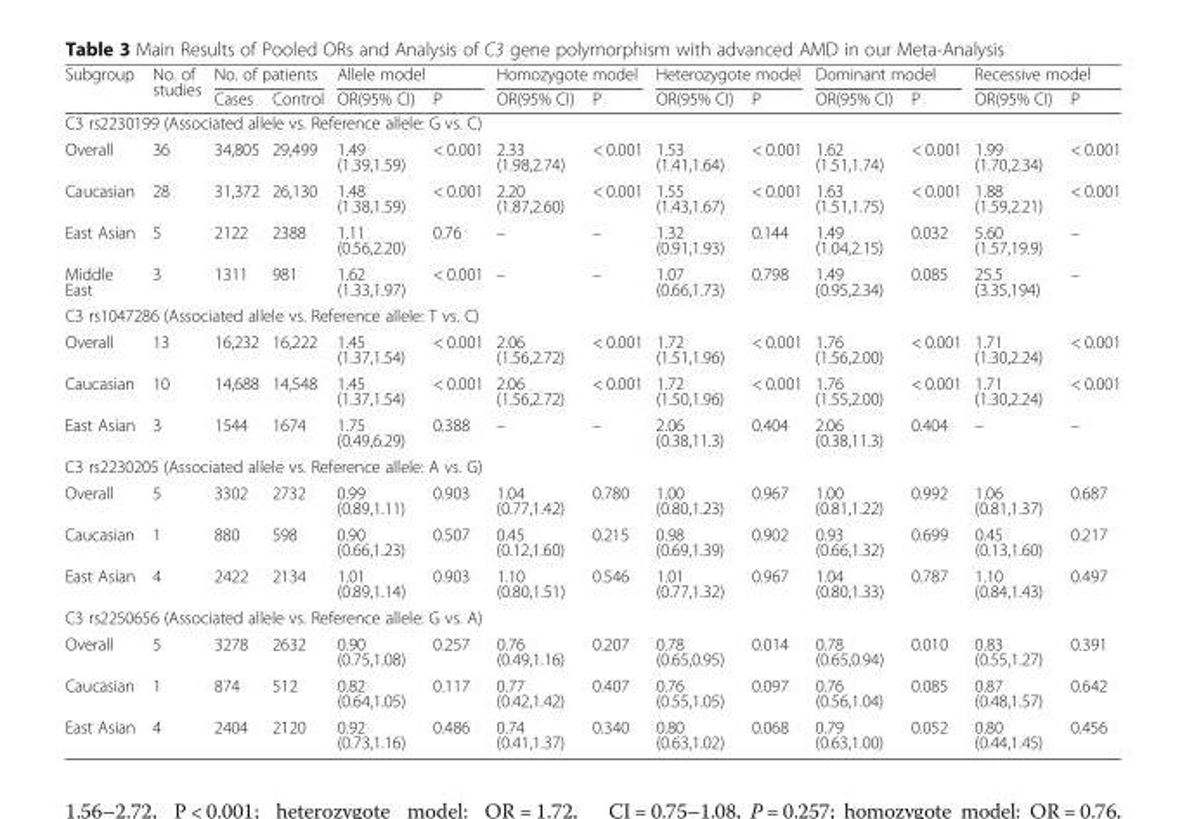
<table><thead><tr><td rowspan="2">Subgroup</td><td rowspan="2">No. of studies</td><td colspan="2">No. of patients</td><td colspan="2">Allele model</td><td colspan="2">Homozygote model</td><td colspan="2">Heterozygote model</td><td colspan="2">Dominant model</td><td colspan="2">Recessive model</td></tr><tr><td>Cases</td><td>Control</td><td>OR(95% CI)</td><td>P</td><td>OR(95% CI)</td><td>P</td><td>OR(95% CI)</td><td>P</td><td>OR(95% CI)</td><td>P</td><td>OR(95% CI)</td><td>P</td></tr></thead><tbody><tr><td colspan="14">C3 rs2230199 (Associated allele vs. Reference allele: G vs. C)</td></tr><tr><td>Overall</td><td>36</td><td>34,805</td><td>29,499</td><td>1.49 (1.39,1.59)</td><td>&lt; 0.001</td><td>2.33 (1.98,2.74)</td><td>&lt; 0.001</td><td>1.53 (1.41,1.64)</td><td>&lt; 0.001</td><td>1.62 (1.51,1.74)</td><td>&lt; 0.001</td><td>1.99 (1.70,2.34)</td><td>&lt; 0.001</td></tr><tr><td>Caucasian</td><td>28</td><td>31,372</td><td>26,130</td><td>1.48 (1.38,1.59)</td><td>&lt; 0.001</td><td>2.20 (1.87,2.60)</td><td>&lt; 0.001</td><td>1.55 (1.43,1.67)</td><td>&lt; 0.001</td><td>1.63 (1.51,1.75)</td><td>&lt; 0.001</td><td>1.88 (1.59,2.21)</td><td>&lt; 0.001</td></tr><tr><td>East Asian</td><td>5</td><td>2122</td><td>2388</td><td>1.11 (0.56,2.20)</td><td>0.76</td><td>–</td><td>–</td><td>1.32 (0.91,1.93)</td><td>0.144</td><td>1.49 (1.04,2.15)</td><td>0.032</td><td>5.60 (1.57,19.9)</td><td>–</td></tr><tr><td>Middle East</td><td>3</td><td>1311</td><td>981</td><td>1.62 (1.33,1.97)</td><td>&lt; 0.001</td><td>–</td><td>–</td><td>1.07 (0.66,1.73)</td><td>0.798</td><td>1.49 (0.95,2.34)</td><td>0.085</td><td>25.5 (3.35,194)</td><td>–</td></tr><tr><td colspan="14">C3 rs1047286 (Associated allele vs. Reference allele: T vs. C)</td></tr><tr><td>Overall</td><td>13</td><td>16,232</td><td>16,222</td><td>1.45 (1.37,1.54)</td><td>&lt; 0.001</td><td>2.06 (1.56,2.72)</td><td>&lt; 0.001</td><td>1.72 (1.51,1.96)</td><td>&lt; 0.001</td><td>1.76 (1.56,2.00)</td><td>&lt; 0.001</td><td>1.71 (1.30,2.24)</td><td>&lt; 0.001</td></tr><tr><td>Caucasian</td><td>10</td><td>14,688</td><td>14,548</td><td>1.45 (1.37,1.54)</td><td>&lt; 0.001</td><td>2.06 (1.56,2.72)</td><td>&lt; 0.001</td><td>1.72 (1.50,1.96)</td><td>&lt; 0.001</td><td>1.76 (1.55,2.00)</td><td>&lt; 0.001</td><td>1.71 (1.30,2.24)</td><td>&lt; 0.001</td></tr><tr><td>East Asian</td><td>3</td><td>1544</td><td>1674</td><td>1.75 (0.49,6.29)</td><td>0.388</td><td>–</td><td>–</td><td>2.06 (0.38,11.3)</td><td>0.404</td><td>2.06 (0.38,11.3)</td><td>0.404</td><td>–</td><td>–</td></tr><tr><td colspan="14">C3 rs2230205 (Associated allele vs. Reference allele: A vs. G)</td></tr><tr><td>Overall</td><td>5</td><td>3302</td><td>2732</td><td>0.99 (0.89,1.11)</td><td>0.903</td><td>1.04 (0.77,1.42)</td><td>0.780</td><td>1.00 (0.80,1.23)</td><td>0.967</td><td>1.00 (0.81,1.22)</td><td>0.992</td><td>1.06 (0.81,1.37)</td><td>0.687</td></tr><tr><td>Caucasian</td><td>1</td><td>880</td><td>598</td><td>0.90 (0.66,1.23)</td><td>0.507</td><td>0.45 (0.12,1.60)</td><td>0.215</td><td>0.98 (0.69,1.39)</td><td>0.902</td><td>0.93 (0.66,1.32)</td><td>0.699</td><td>0.45 (0.13,1.60)</td><td>0.217</td></tr><tr><td>East Asian</td><td>4</td><td>2422</td><td>2134</td><td>1.01 (0.89,1.14)</td><td>0.903</td><td>1.10 (0.80,1.51)</td><td>0.546</td><td>1.01 (0.77,1.32)</td><td>0.967</td><td>1.04 (0.80,1.33)</td><td>0.787</td><td>1.10 (0.84,1.43)</td><td>0.497</td></tr><tr><td colspan="14">C3 rs2250656 (Associated allele vs. Reference allele: G vs. A)</td></tr><tr><td>Overall</td><td>5</td><td>3278</td><td>2632</td><td>0.90 (0.75,1.08)</td><td>0.257</td><td>0.76 (0.49,1.16)</td><td>0.207</td><td>0.78 (0.65,0.95)</td><td>0.014</td><td>0.78 (0.65,0.94)</td><td>0.010</td><td>0.83 (0.55,1.27)</td><td>0.391</td></tr><tr><td>Caucasian</td><td>1</td><td>874</td><td>512</td><td>0.82 (0.64,1.05)</td><td>0.117</td><td>0.77 (0.42,1.42)</td><td>0.407</td><td>0.76 (0.55,1.05)</td><td>0.097</td><td>0.76 (0.56,1.04)</td><td>0.085</td><td>0.87 (0.48,1.57)</td><td>0.642</td></tr><tr><td>East Asian</td><td>4</td><td>2404</td><td>2120</td><td>0.92 (0.73,1.16)</td><td>0.486</td><td>0.74 (0.41,1.37)</td><td>0.340</td><td>0.80 (0.63,1.02)</td><td>0.068</td><td>0.79 (0.63,1.00)</td><td>0.052</td><td>0.80 (0.44,1.45)</td><td>0.456</td></tr></tbody></table>